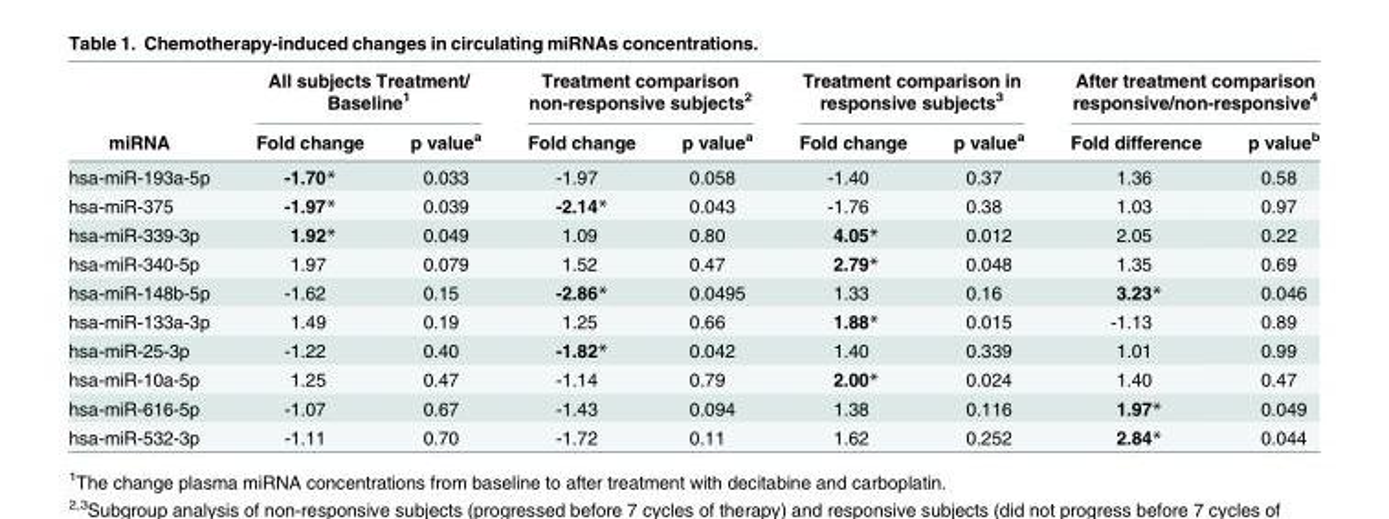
<table><thead><tr><td rowspan="2">miRNA</td><td colspan="2">All subjects Treatment/ Baseline<sup>1</sup></td><td colspan="2">Treatment comparison non-responsive subjects<sup>2</sup></td><td colspan="2">Treatment comparison in responsive subjects<sup>3</sup></td><td colspan="2">After treatment comparison responsive/non-responsive<sup>4</sup></td></tr><tr><td>Fold change</td><td>p value<sup>a</sup></td><td>Fold change</td><td>p value<sup>a</sup></td><td>Fold change</td><td>p value<sup>a</sup></td><td>Fold difference</td><td>p value<sup>b</sup></td></tr></thead><tbody><tr><td>hsa-miR-193a-5p</td><td>-1.70*</td><td>0.033</td><td>-1.97</td><td>0.058</td><td>-1.40</td><td>0.37</td><td>1.36</td><td>0.58</td></tr><tr><td>hsa-miR-375</td><td>-1.97*</td><td>0.039</td><td>-2.14*</td><td>0.043</td><td>-1.76</td><td>0.38</td><td>1.03</td><td>0.97</td></tr><tr><td>hsa-miR-339-3p</td><td>1.92*</td><td>0.049</td><td>1.09</td><td>0.80</td><td>4.05*</td><td>0.012</td><td>2.05</td><td>0.22</td></tr><tr><td>hsa-miR-340-5p</td><td>1.97</td><td>0.079</td><td>1.52</td><td>0.47</td><td>2.79*</td><td>0.048</td><td>1.35</td><td>0.69</td></tr><tr><td>hsa-miR-148b-5p</td><td>-1.62</td><td>0.15</td><td>-2.86*</td><td>0.0495</td><td>1.33</td><td>0.16</td><td>3.23*</td><td>0.046</td></tr><tr><td>hsa-miR-133a-3p</td><td>1.49</td><td>0.19</td><td>1.25</td><td>0.66</td><td>1.88*</td><td>0.015</td><td>-1.13</td><td>0.89</td></tr><tr><td>hsa-miR-25-3p</td><td>-1.22</td><td>0.40</td><td>-1.82*</td><td>0.042</td><td>1.40</td><td>0.339</td><td>1.01</td><td>0.99</td></tr><tr><td>hsa-miR-10a-5p</td><td>1.25</td><td>0.47</td><td>-1.14</td><td>0.79</td><td>2.00*</td><td>0.024</td><td>1.40</td><td>0.47</td></tr><tr><td>hsa-miR-616-5p</td><td>-1.07</td><td>0.67</td><td>-1.43</td><td>0.094</td><td>1.38</td><td>0.116</td><td>1.97*</td><td>0.049</td></tr><tr><td>hsa-miR-532-3p</td><td>-1.11</td><td>0.70</td><td>-1.72</td><td>0.11</td><td>1.62</td><td>0.252</td><td>2.84*</td><td>0.044</td></tr></tbody></table>